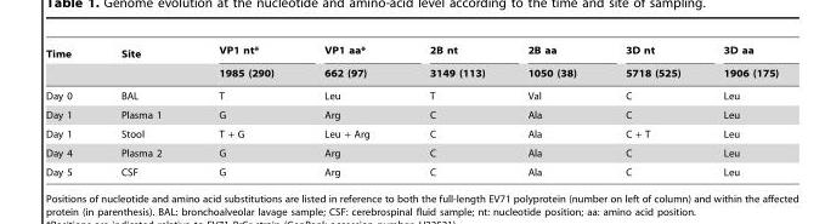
<table><thead><tr><td rowspan="2">Time</td><td rowspan="2">Site</td><td rowspan="2">VP1 nt* 1985 (290)</td><td rowspan="2">VP1 aa* 662 (97)</td><td rowspan="2">2B nt 3149 (113)</td><td rowspan="2">2B aa 1050 (38)</td><td rowspan="2">3D nt 5718 (525)</td><td rowspan="2">3D aa 1906 (175)</td></tr><tr></tr></thead><tbody><tr><td>Day 0</td><td>BAL</td><td>T</td><td>Leu</td><td>T</td><td>Val</td><td>C</td><td>Leu</td></tr><tr><td>Day 1</td><td>Plasma 1</td><td>G</td><td>Arg</td><td>C</td><td>Ala</td><td>C</td><td>Leu</td></tr><tr><td>Day 1</td><td>Stool</td><td>T + G</td><td>Leu + Arg</td><td>C</td><td>Ala</td><td>C + T</td><td>Leu</td></tr><tr><td>Day 4</td><td>Plasma 2</td><td>G</td><td>Arg</td><td>C</td><td>Ala</td><td>C</td><td>Leu</td></tr><tr><td>Day 5</td><td>CSF</td><td>G</td><td>Arg</td><td>C</td><td>Ala</td><td>C</td><td>Leu</td></tr></tbody></table>